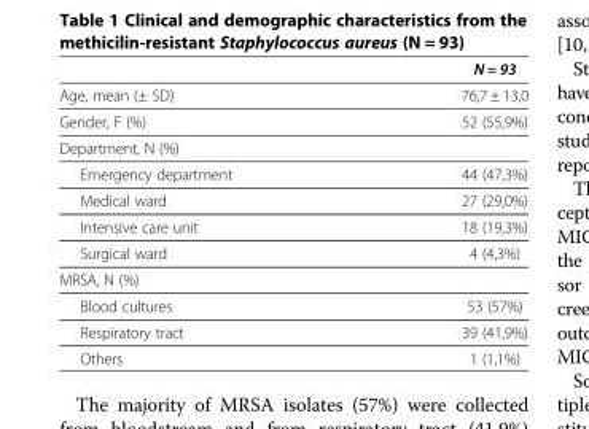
<table><thead><tr><td></td><td>N = 93</td></tr></thead><tbody><tr><td>Age, mean (± SD)</td><td>76,7 ± 13,0</td></tr><tr><td>Gender, F (%)</td><td>52 (55,9%)</td></tr><tr><td colspan="2">Department, N (%)</td></tr><tr><td>Emergency department</td><td>44 (47,3%)</td></tr><tr><td>Medical ward</td><td>27 (29,0%)</td></tr><tr><td>Intensive care unit</td><td>18 (19,3%)</td></tr><tr><td>Surgical ward</td><td>4 (4,3%)</td></tr><tr><td colspan="2">MRSA, N (%)</td></tr><tr><td>Blood cultures</td><td>53 (57%)</td></tr><tr><td>Respiratory tract</td><td>39 (41,9%)</td></tr><tr><td>Others</td><td>1 (1,1%)</td></tr></tbody></table>